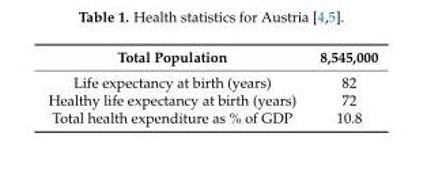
<table><thead><tr><td>Total Population</td><td>8,545,000</td></tr></thead><tbody><tr><td>Life expectancy at birth (years)</td><td>82</td></tr><tr><td>Healthy life expectancy at birth (years)</td><td>72</td></tr><tr><td>Total health expenditure as % of GDP</td><td>10.8</td></tr></tbody></table>